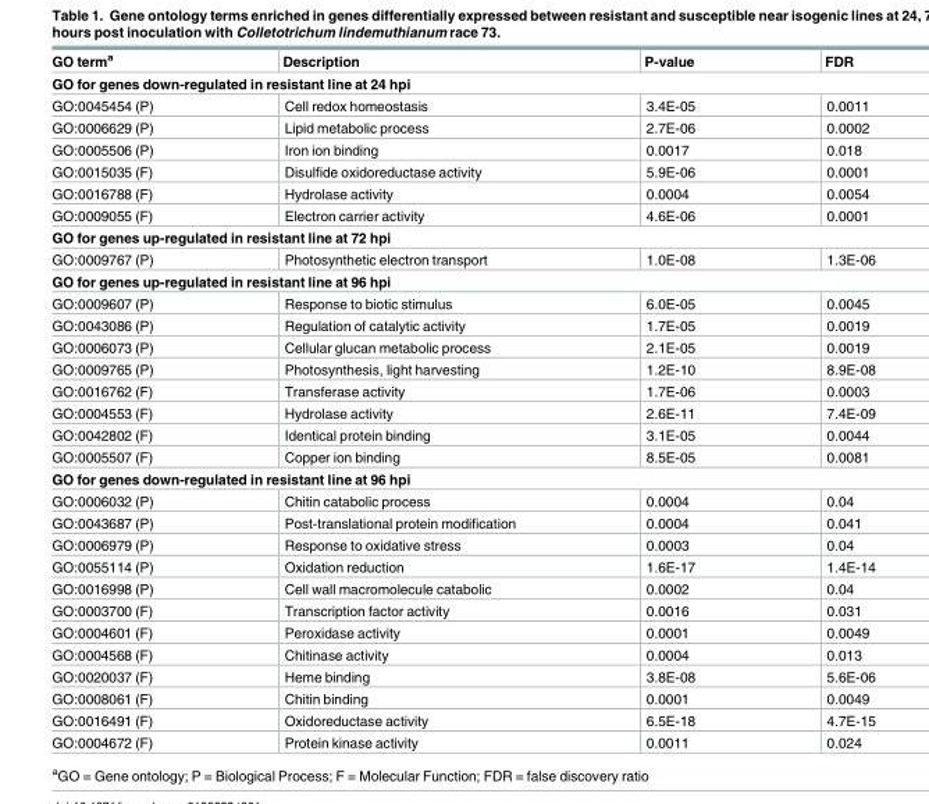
<table><thead><tr><td>GO term<sup>a</sup></td><td>Description</td><td>P-value</td><td>FDR</td></tr></thead><tbody><tr><td colspan="4">GO for genes down-regulated in resistant line at 24 hpi</td></tr><tr><td>GO:0045454 (P)</td><td>Cell redox homeostasis</td><td>3.4E-05</td><td>0.0011</td></tr><tr><td>GO:0006629 (P)</td><td>Lipid metabolic process</td><td>2.7E-06</td><td>0.0002</td></tr><tr><td>GO:0005506 (P)</td><td>Iron ion binding</td><td>0.0017</td><td>0.018</td></tr><tr><td>GO:0015035 (F)</td><td>Disulfide oxidoreductase activity</td><td>5.9E-06</td><td>0.0001</td></tr><tr><td>GO:0016788 (F)</td><td>Hydrolase activity</td><td>0.0004</td><td>0.0054</td></tr><tr><td>GO:0009055 (F)</td><td>Electron carrier activity</td><td>4.6E-06</td><td>0.0001</td></tr><tr><td colspan="4">GO for genes up-regulated in resistant line at 72 hpi</td></tr><tr><td>GO:0009767 (P)</td><td>Photosynthetic electron transport</td><td>1.0E-08</td><td>1.3E-06</td></tr><tr><td colspan="4">GO for genes up-regulated in resistant line at 96 hpi</td></tr><tr><td>GO:0009607 (P)</td><td>Response to biotic stimulus</td><td>6.0E-05</td><td>0.0045</td></tr><tr><td>GO:0043086 (P)</td><td>Regulation of catalytic activity</td><td>1.7E-05</td><td>0.0019</td></tr><tr><td>GO:0006073 (P)</td><td>Cellular glucan metabolic process</td><td>2.1E-05</td><td>0.0019</td></tr><tr><td>GO:0009765 (P)</td><td>Photosynthesis, light harvesting</td><td>1.2E-10</td><td>8.9E-08</td></tr><tr><td>GO:0016762 (F)</td><td>Transferase activity</td><td>1.7E-06</td><td>0.0003</td></tr><tr><td>GO:0004553 (F)</td><td>Hydrolase activity</td><td>2.6E-11</td><td>7.4E-09</td></tr><tr><td>GO:0042802 (F)</td><td>Identical protein binding</td><td>3.1E-05</td><td>0.0044</td></tr><tr><td>GO:0005507 (F)</td><td>Copper ion binding</td><td>8.5E-05</td><td>0.0081</td></tr><tr><td colspan="4">GO for genes down-regulated in resistant line at 96 hpi</td></tr><tr><td>GO:0006032 (P)</td><td>Chitin catabolic process</td><td>0.0004</td><td>0.04</td></tr><tr><td>GO:0043687 (P)</td><td>Post-translational protein modification</td><td>0.0004</td><td>0.041</td></tr><tr><td>GO:0006979 (P)</td><td>Response to oxidative stress</td><td>0.0003</td><td>0.04</td></tr><tr><td>GO:0055114 (P)</td><td>Oxidation reduction</td><td>1.6E-17</td><td>1.4E-14</td></tr><tr><td>GO:0016998 (P)</td><td>Cell wall macromolecule catabolic</td><td>0.0002</td><td>0.04</td></tr><tr><td>GO:0003700 (F)</td><td>Transcription factor activity</td><td>0.0016</td><td>0.031</td></tr><tr><td>GO:0004601 (F)</td><td>Peroxidase activity</td><td>0.0001</td><td>0.0049</td></tr><tr><td>GO:0004568 (F)</td><td>Chitinase activity</td><td>0.0004</td><td>0.013</td></tr><tr><td>GO:0020037 (F)</td><td>Heme binding</td><td>3.8E-08</td><td>5.6E-06</td></tr><tr><td>GO:0008061 (F)</td><td>Chitin binding</td><td>0.0001</td><td>0.0049</td></tr><tr><td>GO:0016491 (F)</td><td>Oxidoreductase activity</td><td>6.5E-18</td><td>4.7E-15</td></tr><tr><td>GO:0004672 (F)</td><td>Protein kinase activity</td><td>0.0011</td><td>0.024</td></tr></tbody></table>